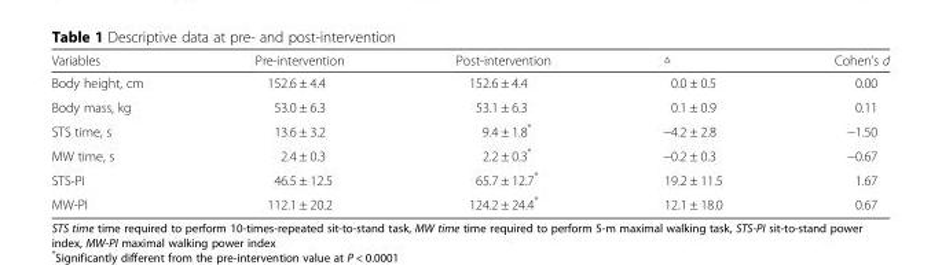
<table><thead><tr><td>Variables</td><td>Pre-intervention</td><td>Post-intervention</td><td>△</td><td>Cohen’s d</td></tr></thead><tbody><tr><td>Body height, cm</td><td>152.6 ± 4.4</td><td>152.6 ± 4.4</td><td>0.0 ± 0.5</td><td>0.00</td></tr><tr><td>Body mass, kg</td><td>53.0 ± 6.3</td><td>53.1 ± 6.3</td><td>0.1 ± 0.9</td><td>0.11</td></tr><tr><td>STS time, s</td><td>13.6 ± 3.2</td><td>9.4 ± 1.8*</td><td>−4.2 ± 2.8</td><td>−1.50</td></tr><tr><td>MW time, s</td><td>2.4 ± 0.3</td><td>2.2 ± 0.3*</td><td>−0.2 ± 0.3</td><td>−0.67</td></tr><tr><td>STS-PI</td><td>46.5 ± 12.5</td><td>65.7 ± 12.7*</td><td>19.2 ± 11.5</td><td>1.67</td></tr><tr><td>MW-PI</td><td>112.1 ± 20.2</td><td>124.2 ± 24.4*</td><td>12.1 ± 18.0</td><td>0.67</td></tr></tbody></table>